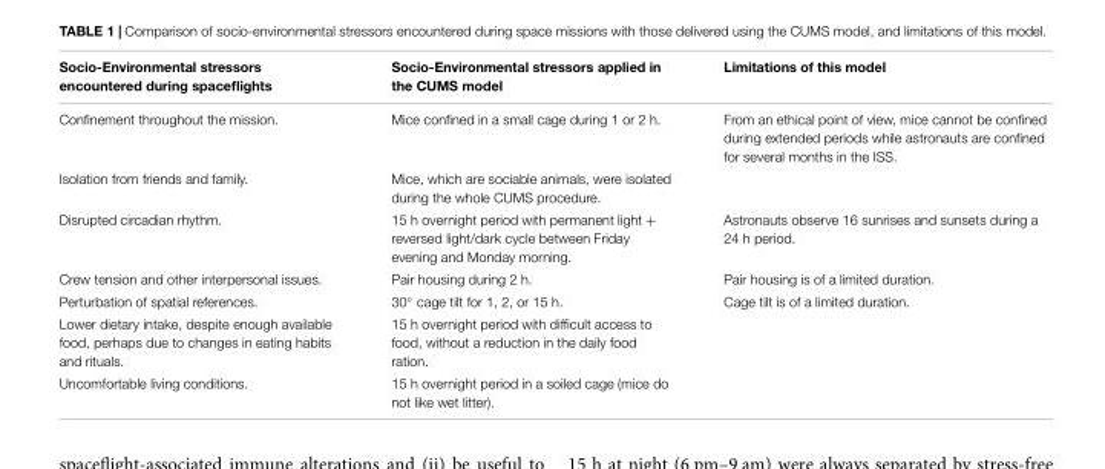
<table><thead><tr><td>Socio-Environmental stressors encountered during spaceflights</td><td>Socio-Environmental stressors applied in the CUMS model</td><td>Limitations of this model</td></tr></thead><tbody><tr><td>Confinement throughout the mission.</td><td>Mice confined in a small cage during 1 or 2 h.</td><td>From an ethical point of view, mice cannot be confined during extended periods while astronauts are confined for several months in the ISS.</td></tr><tr><td>Isolation from friends and family.</td><td>Mice, which are sociable animals, were isolated during the whole CUMS procedure.</td><td></td></tr><tr><td>Disrupted circadian rhythm.</td><td>15 h overnight period with permanent light + reversed light/dark cycle between Friday evening and Monday morning.</td><td>Astronauts observe 16 sunrises and sunsets during a 24 h period.</td></tr><tr><td>Crew tension and other interpersonal issues.</td><td>Pair housing during 2 h.</td><td>Pair housing is of a limited duration.</td></tr><tr><td>Perturbation of spatial references.</td><td>30◦ cage tilt for 1, 2, or 15 h.</td><td>Cage tilt is of a limited duration.</td></tr><tr><td>Lower dietary intake, despite enough available food, perhaps due to changes in eating habits and rituals.</td><td>15 h overnight period with difficult access to food, without a reduction in the daily food ration.</td><td></td></tr><tr><td>Uncomfortable living conditions.</td><td>15 h overnight period in a soiled cage (mice do not like wet litter).</td><td></td></tr></tbody></table>